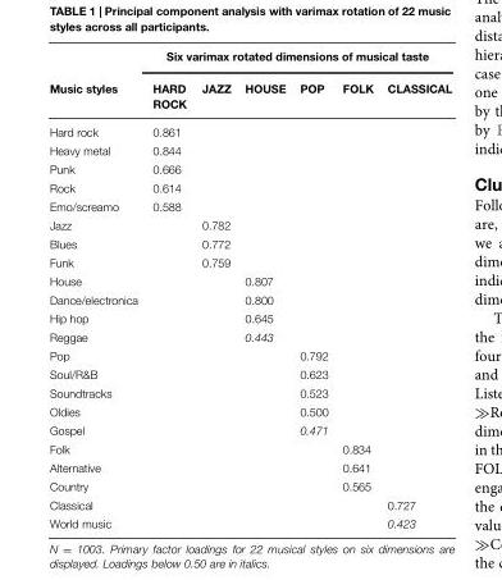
<table><thead><tr><td rowspan="2">Music styles</td><td colspan="6">Six varimax rotated dimensions of musical taste</td></tr><tr><td>HARD ROCK</td><td>JAZZ</td><td>HOUSE</td><td>POP</td><td>FOLK</td><td>CLASSICAL</td></tr></thead><tbody><tr><td>Hard rock</td><td>0.861</td><td></td><td></td><td></td><td></td><td></td></tr><tr><td>Heavy metal</td><td>0.844</td><td></td><td></td><td></td><td></td><td></td></tr><tr><td>Punk</td><td>0.666</td><td></td><td></td><td></td><td></td><td></td></tr><tr><td>Rock</td><td>0.614</td><td></td><td></td><td></td><td></td><td></td></tr><tr><td>Emo/screamo</td><td>0.588</td><td></td><td></td><td></td><td></td><td></td></tr><tr><td>Jazz</td><td></td><td>0.782</td><td></td><td></td><td></td><td></td></tr><tr><td>Blues</td><td></td><td>0.772</td><td></td><td></td><td></td><td></td></tr><tr><td>Funk</td><td></td><td>0.759</td><td></td><td></td><td></td><td></td></tr><tr><td>House</td><td></td><td></td><td>0.807</td><td></td><td></td><td></td></tr><tr><td>Dance/electronica</td><td></td><td></td><td>0.800</td><td></td><td></td><td></td></tr><tr><td>Hip hop</td><td></td><td></td><td>0.645</td><td></td><td></td><td></td></tr><tr><td>Reggae</td><td></td><td></td><td>0.443</td><td></td><td></td><td></td></tr><tr><td>Pop</td><td></td><td></td><td></td><td>0.792</td><td></td><td></td></tr><tr><td>Soul/R&amp;B</td><td></td><td></td><td></td><td>0.623</td><td></td><td></td></tr><tr><td>Soundtracks</td><td></td><td></td><td></td><td>0.523</td><td></td><td></td></tr><tr><td>Oldies</td><td></td><td></td><td></td><td>0.500</td><td></td><td></td></tr><tr><td>Gospel</td><td></td><td></td><td></td><td>0.471</td><td></td><td></td></tr><tr><td>Folk</td><td></td><td></td><td></td><td></td><td>0.834</td><td></td></tr><tr><td>Alternative</td><td></td><td></td><td></td><td></td><td>0.641</td><td></td></tr><tr><td>Country</td><td></td><td></td><td></td><td></td><td>0.565</td><td></td></tr><tr><td>Classical</td><td></td><td></td><td></td><td></td><td></td><td>0.727</td></tr><tr><td>World music</td><td></td><td></td><td></td><td></td><td></td><td>0.423</td></tr></tbody></table>